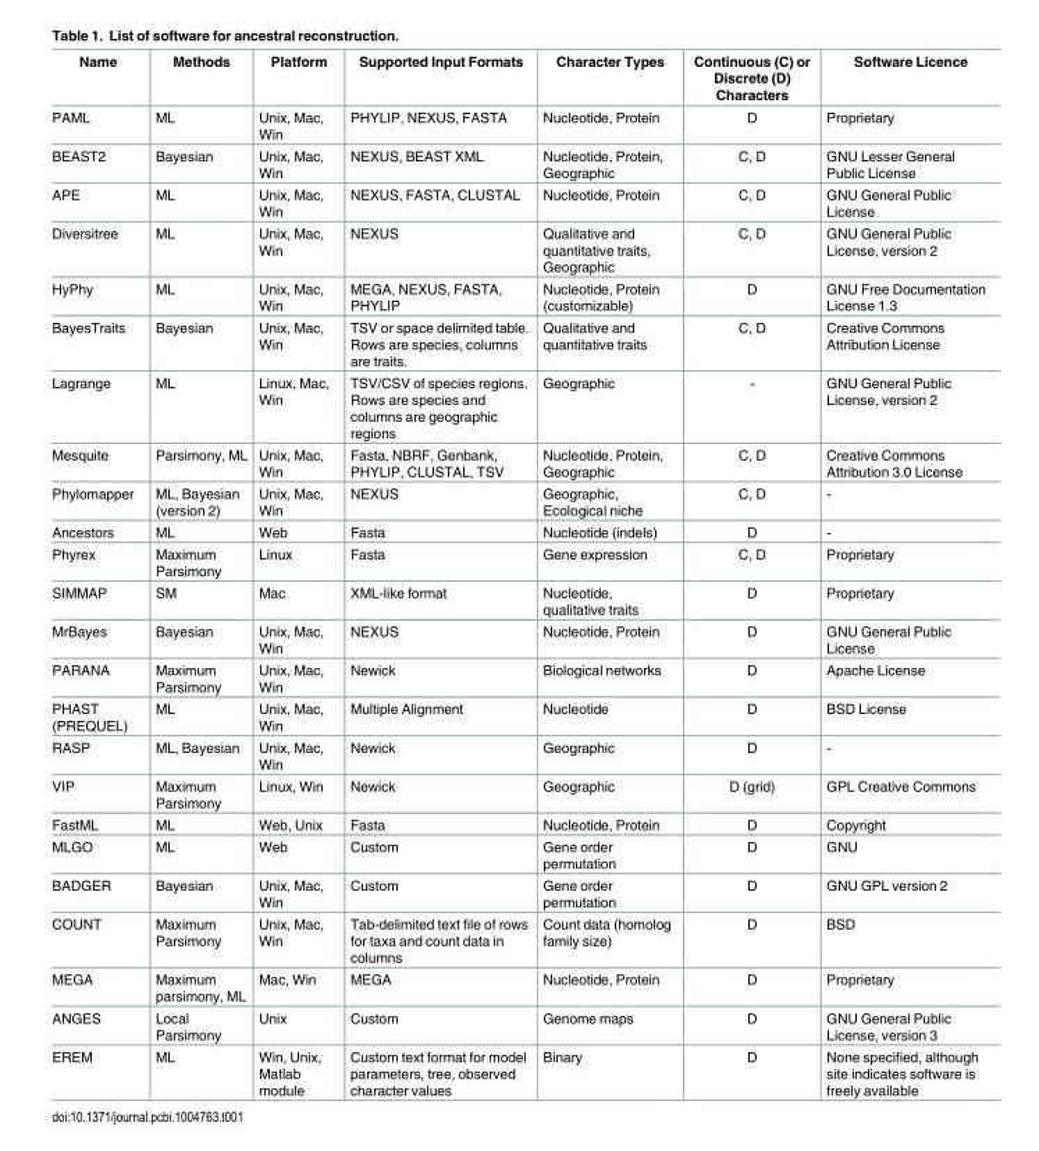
<table><thead><tr><td>Name</td><td>Methods</td><td>Platform</td><td>Supported Input Formats</td><td>Character Types</td><td>Continuous (C) or Discrete (D) Characters</td><td>Software Licence</td></tr></thead><tbody><tr><td>PAML</td><td>ML</td><td>Unix, Mac, Win</td><td>PHYLIP, NEXUS, FASTA</td><td>Nucleotide, Protein</td><td>D</td><td>Proprietary</td></tr><tr><td>BEAST2</td><td>Bayesian</td><td>Unix, Mac, Win</td><td>NEXUS, BEAST XML</td><td>Nucleotide, Protein, Geographic</td><td>C, D</td><td>GNU Lesser General Public License</td></tr><tr><td>APE</td><td>ML</td><td>Unix, Mac, Win</td><td>NEXUS, FASTA, CLUSTAL</td><td>Nucleotide, Protein</td><td>C, D</td><td>GNU General Public License</td></tr><tr><td>Diversitree</td><td>ML</td><td>Unix, Mac, Win</td><td>NEXUS</td><td>Qualitative and quantitative traits, Geographic</td><td>C, D</td><td>GNU General Public License, version 2</td></tr><tr><td>HyPhy</td><td>ML</td><td>Unix, Mac, Win</td><td>MEGA, NEXUS, FASTA, PHYLIP</td><td>Nucleotide, Protein (customizable)</td><td>D</td><td>GNU Free Documentation License 1.3</td></tr><tr><td>BayesTraits</td><td>Bayesian</td><td>Unix, Mac, Win</td><td>TSV or space delimited table. Rows are species, columns are traits.</td><td>Qualitative and quantitative traits</td><td>C, D</td><td>Creative Commons Attribution License</td></tr><tr><td>Lagrange</td><td>ML</td><td>Linux, Mac, Win</td><td>TSV/CSV of species regions. Rows are species and columns are geographic regions</td><td>Geographic</td><td>-</td><td>GNU General Public License, version 2</td></tr><tr><td>Mesquite</td><td>Parsimony, ML</td><td>Unix, Mac, Win</td><td>Fasta, NBRF, Genbank, PHYLIP, CLUSTAL, TSV</td><td>Nucleotide, Protein, Geographic</td><td>C, D</td><td>Creative Commons Attribution 3.0 License</td></tr><tr><td>Phylomapper</td><td>ML, Bayesian (version 2)</td><td>Unix, Mac, Win</td><td>NEXUS</td><td>Geographic, Ecological niche</td><td>C, D</td><td>-</td></tr><tr><td>Ancestors</td><td>ML</td><td>Web</td><td>Fasta</td><td>Nucleotide (indels)</td><td>D</td><td>-</td></tr><tr><td>Phyrex</td><td>Maximum Parsimony</td><td>Linux</td><td>Fasta</td><td>Gene expression</td><td>C, D</td><td>Proprietary</td></tr><tr><td>SIMMAP</td><td>SM</td><td>Mac</td><td>XML-like format</td><td>Nucleotide, qualitative traits</td><td>D</td><td>Proprietary</td></tr><tr><td>MrBayes</td><td>Bayesian</td><td>Unix, Mac, Win</td><td>NEXUS</td><td>Nucleotide, Protein</td><td>D</td><td>GNU General Public License</td></tr><tr><td>PARANA</td><td>Maximum Parsimony</td><td>Unix, Mac, Win</td><td>Newick</td><td>Biological networks</td><td>D</td><td>Apache License</td></tr><tr><td>PHAST (PREQUEL)</td><td>ML</td><td>Unix, Mac, Win</td><td>Multiple Alignment</td><td>Nucleotide</td><td>D</td><td>BSD License</td></tr><tr><td>RASP</td><td>ML, Bayesian</td><td>Unix, Mac, Win</td><td>Newick</td><td>Geographic</td><td>D</td><td>-</td></tr><tr><td>VIP</td><td>Maximum Parsimony</td><td>Linux, Win</td><td>Newick</td><td>Geographic</td><td>D (grid)</td><td>GPL Creative Commons</td></tr><tr><td>FastML</td><td>ML</td><td>Web, Unix</td><td>Fasta</td><td>Nucleotide, Protein</td><td>D</td><td>Copyright</td></tr><tr><td>MLGO</td><td>ML</td><td>Web</td><td>Custom</td><td>Gene order permutation</td><td>D</td><td>GNU</td></tr><tr><td>BADGER</td><td>Bayesian</td><td>Unix, Mac, Win</td><td>Custom</td><td>Gene order permutation</td><td>D</td><td>GNU GPL version 2</td></tr><tr><td>COUNT</td><td>Maximum Parsimony</td><td>Unix, Mac, Win</td><td>Tab-delimited text file of rows for taxa and count data in columns</td><td>Count data (homolog family size)</td><td>D</td><td>BSD</td></tr><tr><td>MEGA</td><td>Maximum parsimony, ML</td><td>Mac, Win</td><td>MEGA</td><td>Nucleotide, Protein</td><td>D</td><td>Proprietary</td></tr><tr><td>ANGES</td><td>Local Parsimony</td><td>Unix</td><td>Custom</td><td>Genome maps</td><td>D</td><td>GNU General Public License, version 3</td></tr><tr><td>EREM</td><td>ML</td><td>Win, Unix, Matlab module</td><td>Custom text format for model parameters, tree, observed character values</td><td>Binary</td><td>D</td><td>None specified, although site indicates software is freely available</td></tr></tbody></table>